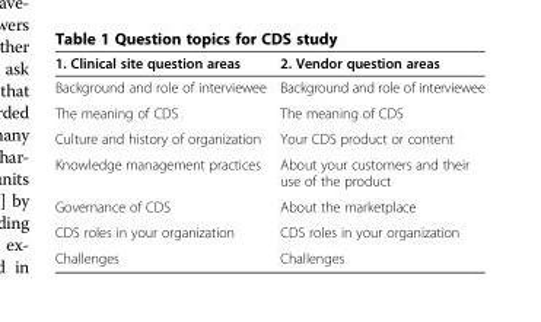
<table><thead><tr><td>1. Clinical site question areas</td><td>2. Vendor question areas</td></tr></thead><tbody><tr><td>Background and role of interviewee</td><td>Background and role of interviewee</td></tr><tr><td>The meaning of CDS</td><td>The meaning of CDS</td></tr><tr><td>Culture and history of organization</td><td>Your CDS product or content</td></tr><tr><td>Knowledge management practices</td><td>About your customers and their use of the product</td></tr><tr><td>Governance of CDS</td><td>About the marketplace</td></tr><tr><td>CDS roles in your organization</td><td>CDS roles in your organization</td></tr><tr><td>Challenges</td><td>Challenges</td></tr></tbody></table>